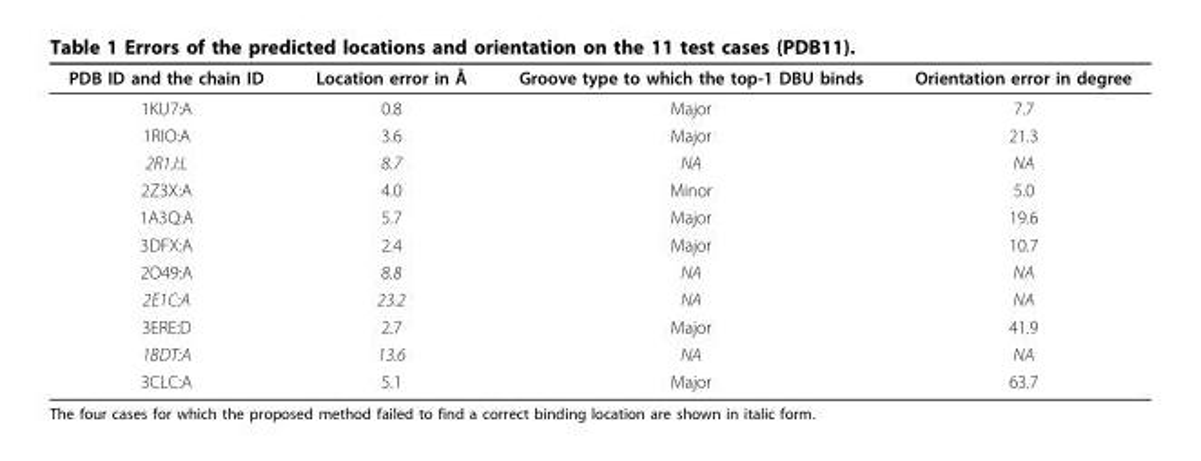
<table><thead><tr><td>PDB ID and the chain ID</td><td>Location error in Å</td><td>Groove type to which the top-1 DBU binds</td><td>Orientation error in degree</td></tr></thead><tbody><tr><td>1KU7:A</td><td>0.8</td><td>Major</td><td>7.7</td></tr><tr><td>1RIO:A</td><td>3.6</td><td>Major</td><td>21.3</td></tr><tr><td>2R1J:L</td><td>8.7</td><td>NA</td><td>NA</td></tr><tr><td>2Z3X:A</td><td>4.0</td><td>Minor</td><td>5.0</td></tr><tr><td>1A3Q:A</td><td>5.7</td><td>Major</td><td>19.6</td></tr><tr><td>3DFX:A</td><td>2.4</td><td>Major</td><td>10.7</td></tr><tr><td>2O49:A</td><td>8.8</td><td>NA</td><td>NA</td></tr><tr><td>2E1C:A</td><td>23.2</td><td>NA</td><td>NA</td></tr><tr><td>3ERE:D</td><td>2.7</td><td>Major</td><td>41.9</td></tr><tr><td>1BDT:A</td><td>13.6</td><td>NA</td><td>NA</td></tr><tr><td>3CLC:A</td><td>5.1</td><td>Major</td><td>63.7</td></tr></tbody></table>